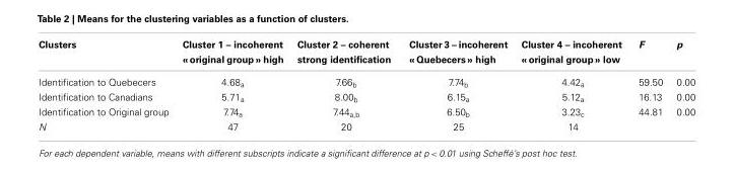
<table><thead><tr><td>Clusters</td><td>Cluster 1 – incoherent « original group » high</td><td>Cluster 2 – coherent strong identification</td><td>Cluster 3 – incoherent « Quebecers » high</td><td>Cluster 4 – incoherent « original group » low</td><td>F</td><td>p</td></tr></thead><tbody><tr><td>Identification to Quebecers</td><td>4.68<sub>a</sub></td><td>7.66<sub>b</sub></td><td>7.74<sub>b</sub></td><td>4.42<sub>a</sub></td><td>59.50</td><td>0.00</td></tr><tr><td>Identification to Canadians</td><td>5.71<sub>a</sub></td><td>8.00<sub>b</sub></td><td>6.15<sub>a</sub></td><td>5.12<sub>a</sub></td><td>16.13</td><td>0.00</td></tr><tr><td>Identification to Original group</td><td>7.74<sub>a</sub></td><td>7.44<sub>a,b</sub></td><td>6.50<sub>b</sub></td><td>3.23<sub>c</sub></td><td>44.81</td><td>0.00</td></tr><tr><td>N</td><td>47</td><td>20</td><td>25</td><td>14</td><td></td><td></td></tr></tbody></table>